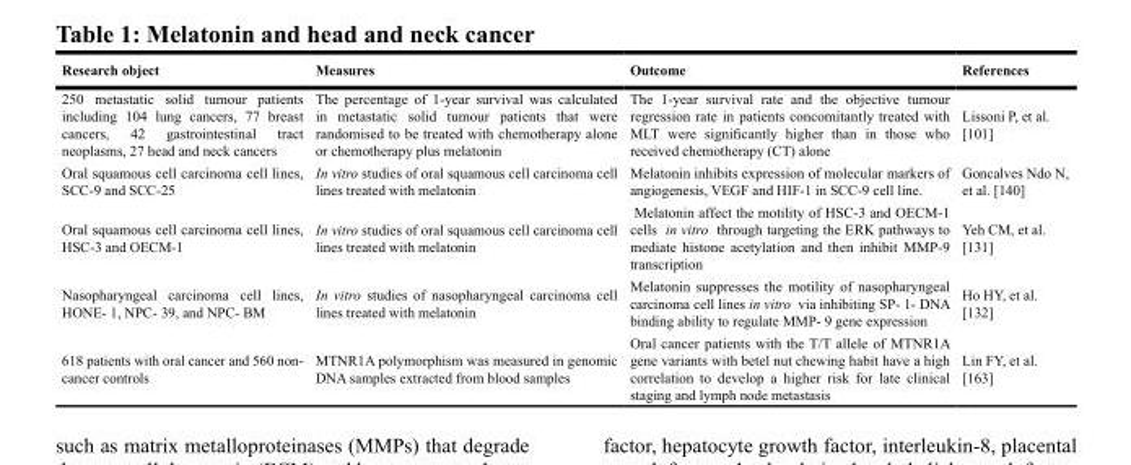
<table><thead><tr><td>Research object</td><td>Measures</td><td>Outcome</td><td>References</td></tr></thead><tbody><tr><td>250 metastatic solid tumour patients including 104 lung cancers, 77 breast cancers, 42 gastrointestinal tract neoplasms, 27 head and neck cancers</td><td>The percentage of 1-year survival was calculated in metastatic solid tumour patients that were randomised to be treated with chemotherapy alone or chemotherapy plus melatonin</td><td>The 1-year survival rate and the objective tumour regression rate in patients concomitantly treated with MLT were significantly higher than in those who received chemotherapy (CT) alone</td><td>Lissoni P, et al. [101]</td></tr><tr><td>Oral squamous cell carcinoma cell lines, SCC-9 and SCC-25</td><td>In vitro studies of oral squamous cell carcinoma cell lines treated with melatonin</td><td>Melatonin inhibits expression of molecular markers of angiogenesis, VEGF and HIF-1 in SCC-9 cell line.</td><td>Goncalves Ndo N, et al. [140]</td></tr><tr><td>Oral squamous cell carcinoma cell lines, HSC-3 and OECM-1</td><td>In vitro studies of oral squamous cell carcinoma cell lines treated with melatonin</td><td>Melatonin affect the motility of HSC-3 and OECM-1 cells in vitro through targeting the ERK pathways to mediate histone acetylation and then inhibit MMP-9 transcription</td><td>Yeh CM, et al. [131]</td></tr><tr><td>Nasopharyngeal carcinoma cell lines, HONE- 1, NPC- 39, and NPC- BM</td><td>In vitro studies of nasopharyngeal carcinoma cell lines treated with melatonin</td><td>Melatonin suppresses the motility of nasopharyngeal carcinoma cell lines in vitro via inhibiting SP- 1- DNA binding ability to regulate MMP- 9 gene expression</td><td>Ho HY, et al. [132]</td></tr><tr><td>618 patients with oral cancer and 560 non- cancer controls</td><td>MTNR1A polymorphism was measured in genomic DNA samples extracted from blood samples</td><td>Oral cancer patients with the T/T allele of MTNR1A gene variants with betel nut chewing habit have a high correlation to develop a higher risk for late clinical staging and lymph node metastasis</td><td>Lin FY, et al. [163]</td></tr></tbody></table>